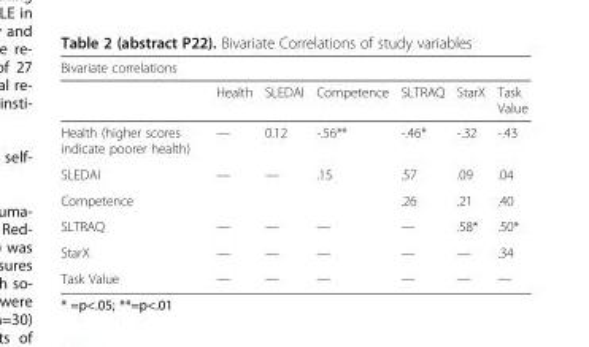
<table><thead><tr><td colspan="7">Bivariate correlations</td></tr><tr><td></td><td>Health</td><td>SLEDAI</td><td>Competence</td><td>SLTRAQ</td><td>StarX</td><td>Task Value</td></tr></thead><tbody><tr><td>Health (higher scores indicate poorer health)</td><td>—</td><td>0.12</td><td>-.56**</td><td>-.46*</td><td>-.32</td><td>-.43</td></tr><tr><td>SLEDAI</td><td>—</td><td>—</td><td>.15</td><td>.57</td><td>.09</td><td>.04</td></tr><tr><td>Competence</td><td></td><td></td><td></td><td>.26</td><td>.21</td><td>.40</td></tr><tr><td>SLTRAQ</td><td>—</td><td>—</td><td>—</td><td>—</td><td>.58*</td><td>.50*</td></tr><tr><td>StarX</td><td>—</td><td>—</td><td>—</td><td>—</td><td>—</td><td>.34</td></tr><tr><td>Task Value</td><td>—</td><td>—</td><td>—</td><td>—</td><td>—</td><td>—</td></tr></tbody></table>